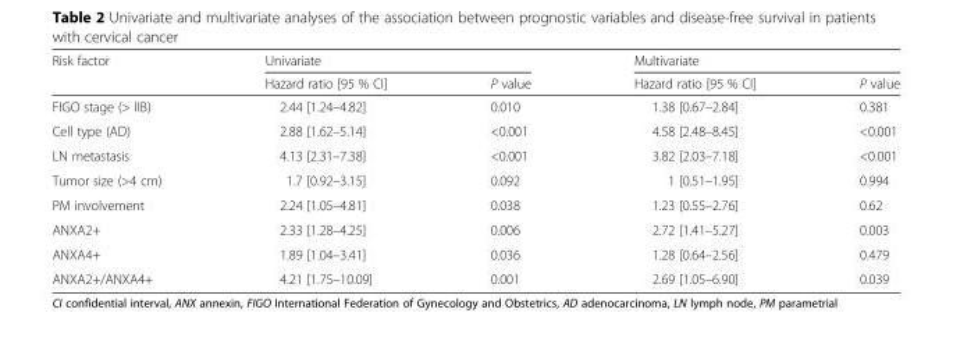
<table><thead><tr><td rowspan="2">Risk factor</td><td colspan="2">Univariate</td><td colspan="2">Multivariate</td></tr><tr><td>Hazard ratio [95 % CI]</td><td>P value</td><td>Hazard ratio [95 % CI]</td><td>P value</td></tr></thead><tbody><tr><td>FIGO stage (&gt; IIB)</td><td>2.44 [1.24–4.82]</td><td>0.010</td><td>1.38 [0.67–2.84]</td><td>0.381</td></tr><tr><td>Cell type (AD)</td><td>2.88 [1.62–5.14]</td><td>&lt;0.001</td><td>4.58 [2.48–8.45]</td><td>&lt;0.001</td></tr><tr><td>LN metastasis</td><td>4.13 [2.31–7.38]</td><td>&lt;0.001</td><td>3.82 [2.03–7.18]</td><td>&lt;0.001</td></tr><tr><td>Tumor size (&gt;4 cm)</td><td>1.7 [0.92–3.15]</td><td>0.092</td><td>1 [0.51–1.95]</td><td>0.994</td></tr><tr><td>PM involvement</td><td>2.24 [1.05–4.81]</td><td>0.038</td><td>1.23 [0.55–2.76]</td><td>0.62</td></tr><tr><td>ANXA2+</td><td>2.33 [1.28–4.25]</td><td>0.006</td><td>2.72 [1.41–5.27]</td><td>0.003</td></tr><tr><td>ANXA4+</td><td>1.89 [1.04–3.41]</td><td>0.036</td><td>1.28 [0.64–2.56]</td><td>0.479</td></tr><tr><td>ANXA2+/ANXA4+</td><td>4.21 [1.75–10.09]</td><td>0.001</td><td>2.69 [1.05–6.90]</td><td>0.039</td></tr></tbody></table>